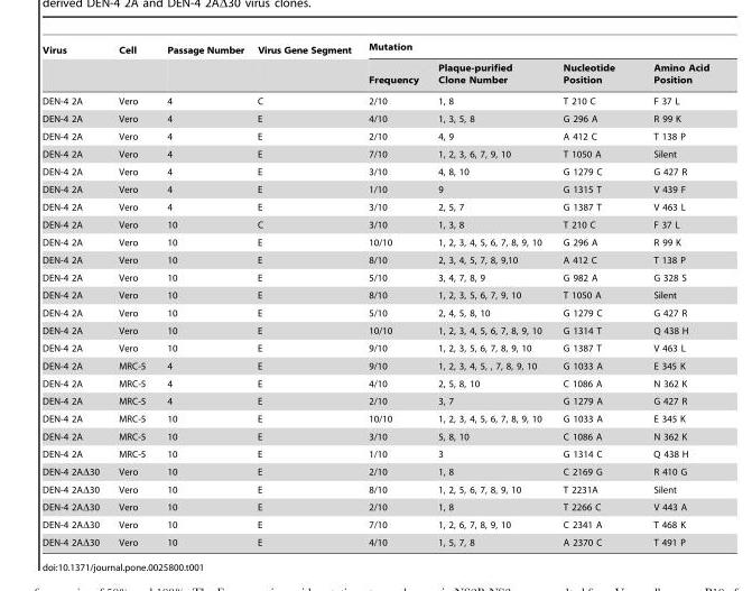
<table><thead><tr><td rowspan="2">Virus</td><td rowspan="2">Cell</td><td rowspan="2">Passage Number</td><td rowspan="2">Virus Gene Segment</td><td colspan="4">Mutation</td></tr><tr><td>Frequency</td><td>Plaque-purified Clone Number</td><td>Nucleotide Position</td><td>Amino Acid Position</td></tr></thead><tbody><tr><td>DEN-4 2A</td><td>Vero</td><td>4</td><td>C</td><td>2/10</td><td>1, 8</td><td>T 210 C</td><td>F 37 L</td></tr><tr><td>DEN-4 2A</td><td>Vero</td><td>4</td><td>E</td><td>4/10</td><td>1, 3, 5, 8</td><td>G 296 A</td><td>R 99 K</td></tr><tr><td>DEN-4 2A</td><td>Vero</td><td>4</td><td>E</td><td>2/10</td><td>4, 9</td><td>A 412 C</td><td>T 138 P</td></tr><tr><td>DEN-4 2A</td><td>Vero</td><td>4</td><td>E</td><td>7/10</td><td>1, 2, 3, 6, 7, 9, 10</td><td>T 1050 A</td><td>Silent</td></tr><tr><td>DEN-4 2A</td><td>Vero</td><td>4</td><td>E</td><td>3/10</td><td>4, 8, 10</td><td>G 1279 C</td><td>G 427 R</td></tr><tr><td>DEN-4 2A</td><td>Vero</td><td>4</td><td>E</td><td>1/10</td><td>9</td><td>G 1315 T</td><td>V 439 F</td></tr><tr><td>DEN-4 2A</td><td>Vero</td><td>4</td><td>E</td><td>3/10</td><td>2, 5, 7</td><td>G 1387 T</td><td>V 463 L</td></tr><tr><td>DEN-4 2A</td><td>Vero</td><td>10</td><td>C</td><td>3/10</td><td>1, 3, 8</td><td>T 210 C</td><td>F 37 L</td></tr><tr><td>DEN-4 2A</td><td>Vero</td><td>10</td><td>E</td><td>10/10</td><td>1, 2, 3, 4, 5, 6, 7, 8, 9, 10</td><td>G 296 A</td><td>R 99 K</td></tr><tr><td>DEN-4 2A</td><td>Vero</td><td>10</td><td>E</td><td>8/10</td><td>2, 3, 4, 5, 7, 8, 9,10</td><td>A 412 C</td><td>T 138 P</td></tr><tr><td>DEN-4 2A</td><td>Vero</td><td>10</td><td>E</td><td>5/10</td><td>3, 4, 7, 8, 9</td><td>G 982 A</td><td>G 328 S</td></tr><tr><td>DEN-4 2A</td><td>Vero</td><td>10</td><td>E</td><td>8/10</td><td>1, 2, 3, 5, 6, 7, 9, 10</td><td>T 1050 A</td><td>Silent</td></tr><tr><td>DEN-4 2A</td><td>Vero</td><td>10</td><td>E</td><td>5/10</td><td>2, 4, 5, 8, 10</td><td>G 1279 C</td><td>G 427 R</td></tr><tr><td>DEN-4 2A</td><td>Vero</td><td>10</td><td>E</td><td>10/10</td><td>1, 2, 3, 4, 5, 6, 7, 8, 9, 10</td><td>G 1314 T</td><td>Q 438 H</td></tr><tr><td>DEN-4 2A</td><td>Vero</td><td>10</td><td>E</td><td>9/10</td><td>1, 2, 3, 5, 6, 7, 8, 9, 10</td><td>G 1387 T</td><td>V 463 L</td></tr><tr><td>DEN-4 2A</td><td>MRC-5</td><td>4</td><td>E</td><td>9/10</td><td>1, 2, 3, 4, 5, , 7, 8, 9, 10</td><td>G 1033 A</td><td>E 345 K</td></tr><tr><td>DEN-4 2A</td><td>MRC-5</td><td>4</td><td>E</td><td>4/10</td><td>2, 5, 8, 10</td><td>C 1086 A</td><td>N 362 K</td></tr><tr><td>DEN-4 2A</td><td>MRC-5</td><td>4</td><td>E</td><td>2/10</td><td>3, 7</td><td>G 1279 A</td><td>G 427 R</td></tr><tr><td>DEN-4 2A</td><td>MRC-5</td><td>10</td><td>E</td><td>10/10</td><td>1, 2, 3, 4, 5, 6, 7, 8, 9, 10</td><td>G 1033 A</td><td>E 345 K</td></tr><tr><td>DEN-4 2A</td><td>MRC-5</td><td>10</td><td>E</td><td>3/10</td><td>5, 8, 10</td><td>C 1086 A</td><td>N 362 K</td></tr><tr><td>DEN-4 2A</td><td>MRC-5</td><td>10</td><td>E</td><td>1/10</td><td>3</td><td>G 1314 C</td><td>Q 438 H</td></tr><tr><td>DEN-4 2AΔ30</td><td>Vero</td><td>10</td><td>E</td><td>2/10</td><td>1, 8</td><td>C 2169 G</td><td>R 410 G</td></tr><tr><td>DEN-4 2AΔ30</td><td>Vero</td><td>10</td><td>E</td><td>8/10</td><td>1, 2, 5, 6, 7, 8, 9, 10</td><td>T 2231A</td><td>Silent</td></tr><tr><td>DEN-4 2AΔ30</td><td>Vero</td><td>10</td><td>E</td><td>2/10</td><td>1, 8</td><td>T 2266 C</td><td>V 443 A</td></tr><tr><td>DEN-4 2AΔ30</td><td>Vero</td><td>10</td><td>E</td><td>7/10</td><td>1, 2, 6, 7, 8, 9, 10</td><td>C 2341 A</td><td>T 468 K</td></tr><tr><td>DEN-4 2AΔ30</td><td>Vero</td><td>10</td><td>E</td><td>4/10</td><td>1, 5, 7, 8</td><td>A 2370 C</td><td>T 491 P</td></tr></tbody></table>